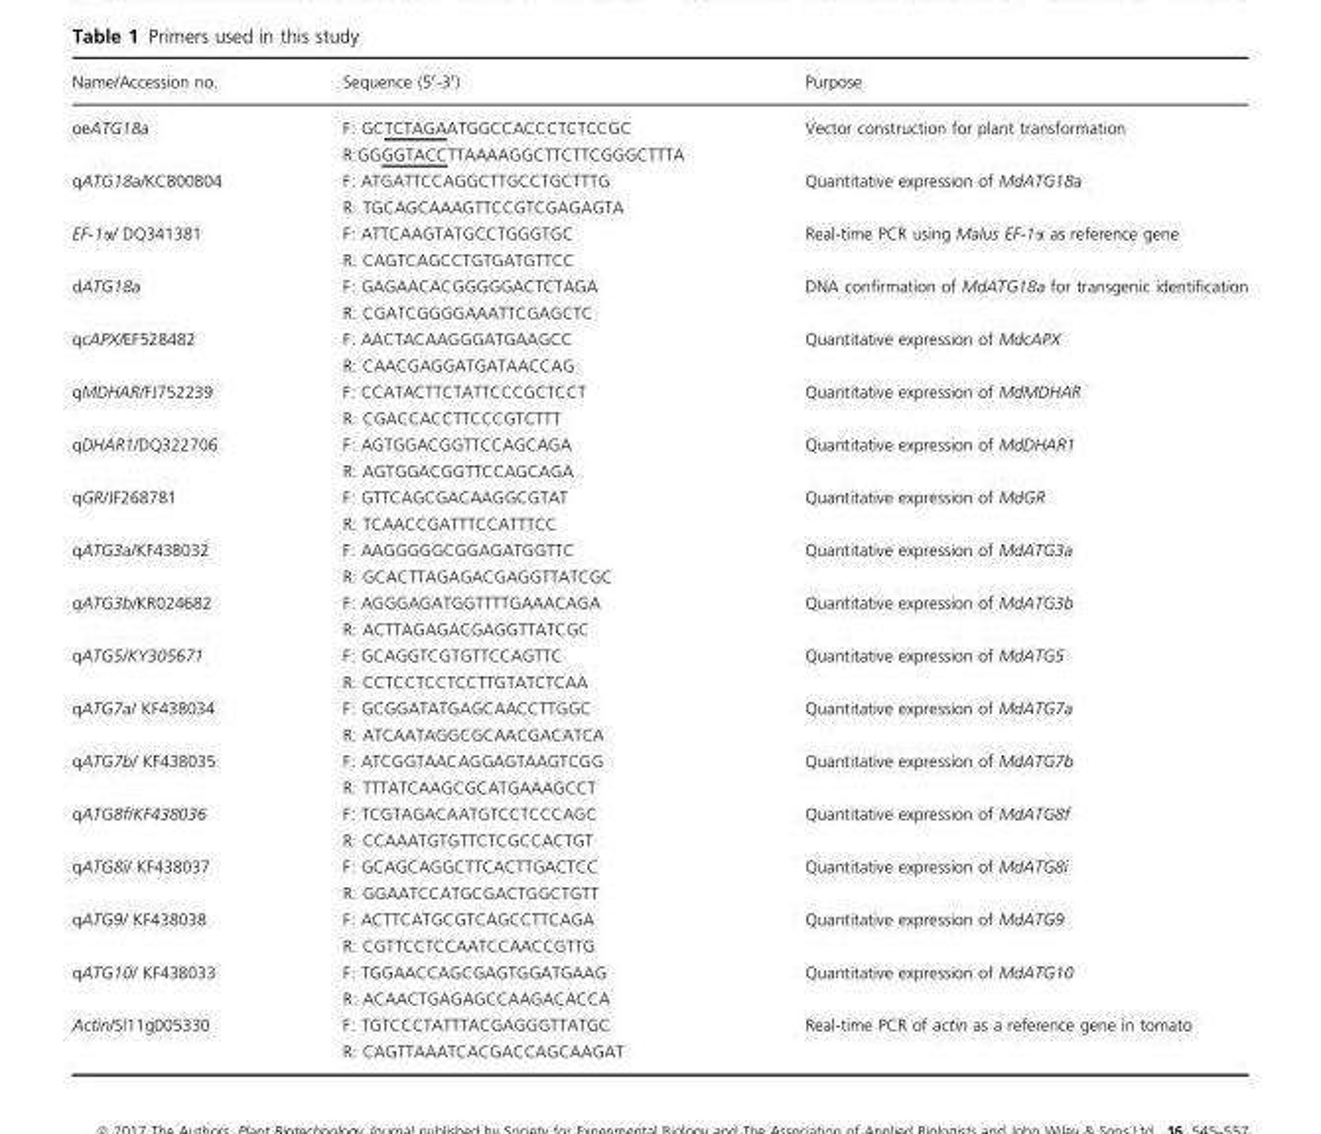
<table><thead><tr><td>Name/Accession no.</td><td>Sequence (5′-3′)</td><td>Purpose</td></tr></thead><tbody><tr><td rowspan="2">oeATG18a</td><td>F: GCTCTAGAATGGCCACCCTCTCCGC</td><td rowspan="2">Vector construction for plant transformation</td></tr><tr><td>R:GGGGTACCTTAAAAGGCTTCTTCGGGCTTTA</td></tr><tr><td rowspan="2">qATG18a/KC800804</td><td>F: ATGATTCCAGGCTTGCCTGCTTTG</td><td rowspan="2">Quantitative expression of MdATG18a</td></tr><tr><td>R: TGCAGCAAAGTTCCGTCGAGAGTA</td></tr><tr><td rowspan="2">EF-1α/ DQ341381</td><td>F: ATTCAAGTATGCCTGGGTGC</td><td rowspan="2">Real-time PCR using Malus EF-1α as reference gene</td></tr><tr><td>R: CAGTCAGCCTGTGATGTTCC</td></tr><tr><td rowspan="2">dATG18a</td><td>F: GAGAACACGGGGGACTCTAGA</td><td rowspan="2">DNA confirmation of MdATG18a for transgenic identification</td></tr><tr><td>R: CGATCGGGGAAATTCGAGCTC</td></tr><tr><td rowspan="2">qcAPX/EF528482</td><td>F: AACTACAAGGGATGAAGCC</td><td rowspan="2">Quantitative expression of MdcAPX</td></tr><tr><td>R: CAACGAGGATGATAACCAG</td></tr><tr><td rowspan="2">qMDHAR/FJ752239</td><td>F: CCATACTTCTATTCCCGCTCCT</td><td rowspan="2">Quantitative expression of MdMDHAR</td></tr><tr><td>R: CGACCACCTTCCCGTCTTT</td></tr><tr><td rowspan="2">qDHAR1/DQ322706</td><td>F: AGTGGACGGTTCCAGCAGA</td><td rowspan="2">Quantitative expression of MdDHAR1</td></tr><tr><td>R: AGTGGACGGTTCCAGCAGA</td></tr><tr><td rowspan="2">qGR/JF268781</td><td>F: GTTCAGCGACAAGGCGTAT</td><td rowspan="2">Quantitative expression of MdGR</td></tr><tr><td>R: TCAACCGATTTCCATTTCC</td></tr><tr><td rowspan="2">qATG3a/KF438032</td><td>F: AAGGGGGCGGAGATGGTTC</td><td rowspan="2">Quantitative expression of MdATG3a</td></tr><tr><td>R: GCACTTAGAGACGAGGTTATCGC</td></tr><tr><td rowspan="2">qATG3b/KR024682</td><td>F: AGGGAGATGGTTTTGAAACAGA</td><td rowspan="2">Quantitative expression of MdATG3b</td></tr><tr><td>R: ACTTAGAGACGAGGTTATCGC</td></tr><tr><td rowspan="2">qATG5/KY305671</td><td>F: GCAGGTCGTGTTCCAGTTC</td><td rowspan="2">Quantitative expression of MdATG5</td></tr><tr><td>R: CCTCCTCCTCCTTGTATCTCAA</td></tr><tr><td rowspan="2">qATG7a/ KF438034</td><td>F: GCGGATATGAGCAACCTTGGC</td><td rowspan="2">Quantitative expression of MdATG7a</td></tr><tr><td>R: ATCAATAGGCGCAACGACATCA</td></tr><tr><td rowspan="2">qATG7b/ KF438035</td><td>F: ATCGGTAACAGGAGTAAGTCGG</td><td rowspan="2">Quantitative expression of MdATG7b</td></tr><tr><td>R: TTTATCAAGCGCATGAAAGCCT</td></tr><tr><td rowspan="2">qATG8f/KF438036</td><td>F: TCGTAGACAATGTCCTCCCAGC</td><td rowspan="2">Quantitative expression of MdATG8f</td></tr><tr><td>R: CCAAATGTGTTCTCGCCACTGT</td></tr><tr><td rowspan="2">qATG8i/ KF438037</td><td>F: GCAGCAGGCTTCACTTGACTCC</td><td rowspan="2">Quantitative expression of MdATG8i</td></tr><tr><td>R: GGAATCCATGCGACTGGCTGTT</td></tr><tr><td rowspan="2">qATG9/ KF438038</td><td>F: ACTTCATGCGTCAGCCTTCAGA</td><td rowspan="2">Quantitative expression of MdATG9</td></tr><tr><td>R: CGTTCCTCCAATCCAACCGTTG</td></tr><tr><td rowspan="2">qATG10/ KF438033</td><td>F: TGGAACCAGCGAGTGGATGAAG</td><td rowspan="2">Quantitative expression of MdATG10</td></tr><tr><td>R: ACAACTGAGAGCCAAGACACCA</td></tr><tr><td rowspan="2">Actin/Sl11g005330</td><td>F: TGTCCCTATTTACGAGGGTTATGC</td><td rowspan="2">Real-time PCR of actin as a reference gene in tomato</td></tr><tr><td>R: CAGTTAAATCACGACCAGCAAGAT</td></tr></tbody></table>